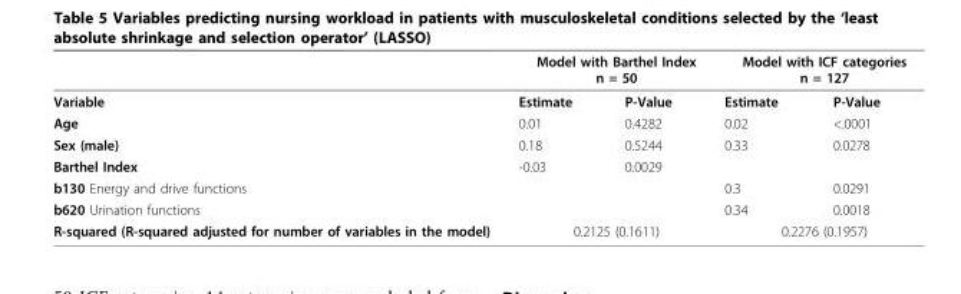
<table><thead><tr><td rowspan="2">Variable</td><td colspan="2">Model with Barthel Index n = 50</td><td colspan="2">Model with ICF categories n = 127</td></tr><tr><td>Estimate</td><td>P-Value</td><td>Estimate</td><td>P-Value</td></tr></thead><tbody><tr><td>Age</td><td>0.01</td><td>0.4282</td><td>0.02</td><td>&lt;.0001</td></tr><tr><td>Sex (male)</td><td>0.18</td><td>0.5244</td><td>0.33</td><td>0.0278</td></tr><tr><td>Barthel Index</td><td>-0.03</td><td>0.0029</td><td></td><td></td></tr><tr><td>b130 Energy and drive functions</td><td></td><td></td><td>0.3</td><td>0.0291</td></tr><tr><td>b620 Urination functions</td><td></td><td></td><td>0.34</td><td>0.0018</td></tr><tr><td>R-squared (R-squared adjusted for number of variables in the model)</td><td colspan="2">0.2125 (0.1611)</td><td colspan="2">0.2276 (0.1957)</td></tr></tbody></table>